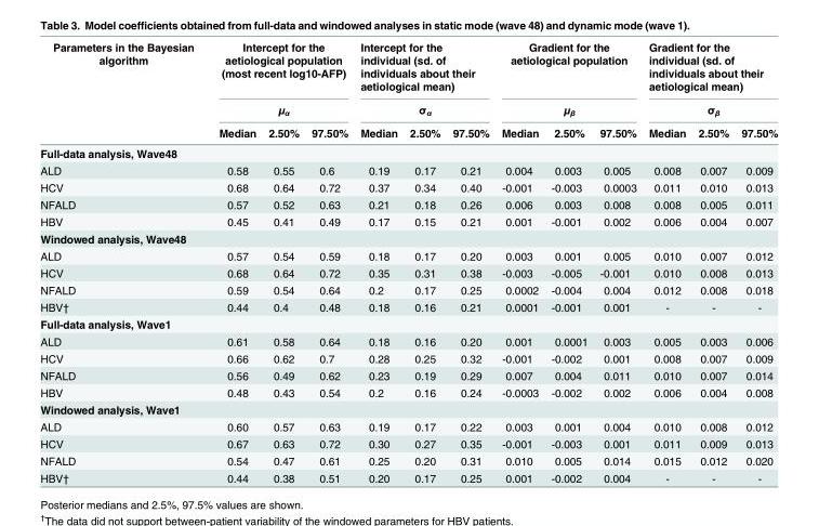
<table><thead><tr><td rowspan="3">Parameters in the Bayesian algorithm</td><td rowspan="2" colspan="3">Intercept for the aetiological population (most recent log10-AFP) μ<sub>α</sub></td><td rowspan="2" colspan="3">Intercept for the individual (sd. of individuals about their aetiological mean) σ<sub>α</sub></td><td rowspan="2" colspan="3">Gradient for the aetiological population μ<sub>β</sub></td><td rowspan="2" colspan="3">Gradient for the individual (sd. of individuals about their aetiological mean) σ<sub>β</sub></td></tr><tr></tr><tr><td>Median</td><td>2.50%</td><td>97.50%</td><td>Median</td><td>2.50%</td><td>97.50%</td><td>Median</td><td>2.50%</td><td>97.50%</td><td>Median</td><td>2.50%</td><td>97.50%</td></tr></thead><tbody><tr><td colspan="13">Full-data analysis, Wave48</td></tr><tr><td>ALD</td><td>0.58</td><td>0.55</td><td>0.6</td><td>0.19</td><td>0.17</td><td>0.21</td><td>0.004</td><td>0.003</td><td>0.005</td><td>0.008</td><td>0.007</td><td>0.009</td></tr><tr><td>HCV</td><td>0.68</td><td>0.64</td><td>0.72</td><td>0.37</td><td>0.34</td><td>0.40</td><td>-0.001</td><td>-0.003</td><td>0.0003</td><td>0.011</td><td>0.010</td><td>0.013</td></tr><tr><td>NFALD</td><td>0.57</td><td>0.52</td><td>0.63</td><td>0.21</td><td>0.18</td><td>0.26</td><td>0.006</td><td>0.003</td><td>0.008</td><td>0.008</td><td>0.005</td><td>0.011</td></tr><tr><td>HBV</td><td>0.45</td><td>0.41</td><td>0.49</td><td>0.17</td><td>0.15</td><td>0.21</td><td>0.001</td><td>-0.001</td><td>0.002</td><td>0.006</td><td>0.004</td><td>0.007</td></tr><tr><td colspan="13">Windowed analysis, Wave48</td></tr><tr><td>ALD</td><td>0.57</td><td>0.54</td><td>0.59</td><td>0.18</td><td>0.17</td><td>0.20</td><td>0.003</td><td>0.001</td><td>0.005</td><td>0.010</td><td>0.007</td><td>0.012</td></tr><tr><td>HCV</td><td>0.68</td><td>0.64</td><td>0.72</td><td>0.35</td><td>0.31</td><td>0.38</td><td>-0.003</td><td>-0.005</td><td>-0.001</td><td>0.010</td><td>0.008</td><td>0.013</td></tr><tr><td>NFALD</td><td>0.59</td><td>0.54</td><td>0.64</td><td>0.2</td><td>0.17</td><td>0.25</td><td>0.0002</td><td>-0.004</td><td>0.004</td><td>0.012</td><td>0.008</td><td>0.018</td></tr><tr><td>HBV†</td><td>0.44</td><td>0.4</td><td>0.48</td><td>0.18</td><td>0.16</td><td>0.21</td><td>0.0001</td><td>-0.001</td><td>0.001</td><td>-</td><td>-</td><td>-</td></tr><tr><td colspan="13">Full-data analysis, Wave1</td></tr><tr><td>ALD</td><td>0.61</td><td>0.58</td><td>0.64</td><td>0.18</td><td>0.16</td><td>0.20</td><td>0.001</td><td>0.0001</td><td>0.003</td><td>0.005</td><td>0.003</td><td>0.006</td></tr><tr><td>HCV</td><td>0.66</td><td>0.62</td><td>0.7</td><td>0.28</td><td>0.25</td><td>0.32</td><td>-0.001</td><td>-0.002</td><td>0.001</td><td>0.008</td><td>0.007</td><td>0.009</td></tr><tr><td>NFALD</td><td>0.56</td><td>0.49</td><td>0.62</td><td>0.23</td><td>0.19</td><td>0.29</td><td>0.007</td><td>0.004</td><td>0.011</td><td>0.010</td><td>0.007</td><td>0.014</td></tr><tr><td>HBV</td><td>0.48</td><td>0.43</td><td>0.54</td><td>0.2</td><td>0.16</td><td>0.24</td><td>-0.0003</td><td>-0.002</td><td>0.002</td><td>0.006</td><td>0.004</td><td>0.008</td></tr><tr><td colspan="13">Windowed analysis, Wave1</td></tr><tr><td>ALD</td><td>0.60</td><td>0.57</td><td>0.63</td><td>0.19</td><td>0.17</td><td>0.22</td><td>0.003</td><td>0.001</td><td>0.004</td><td>0.010</td><td>0.008</td><td>0.012</td></tr><tr><td>HCV</td><td>0.67</td><td>0.63</td><td>0.72</td><td>0.30</td><td>0.27</td><td>0.35</td><td>-0.001</td><td>-0.003</td><td>0.001</td><td>0.011</td><td>0.009</td><td>0.013</td></tr><tr><td>NFALD</td><td>0.54</td><td>0.47</td><td>0.61</td><td>0.25</td><td>0.20</td><td>0.31</td><td>0.010</td><td>0.005</td><td>0.014</td><td>0.015</td><td>0.012</td><td>0.020</td></tr><tr><td>HBV†</td><td>0.44</td><td>0.38</td><td>0.51</td><td>0.20</td><td>0.17</td><td>0.25</td><td>0.001</td><td>-0.002</td><td>0.004</td><td>-</td><td>-</td><td>-</td></tr></tbody></table>